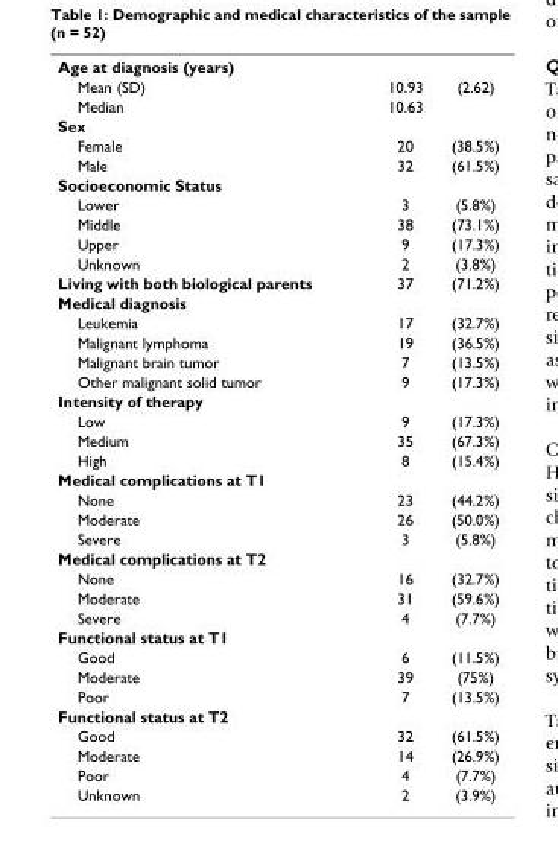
<table><tbody><tr><td colspan="3">Age at diagnosis (years)</td></tr><tr><td>Mean (SD)</td><td>10.93</td><td>(2.62)</td></tr><tr><td>Median</td><td>10.63</td><td></td></tr><tr><td colspan="3">Sex</td></tr><tr><td>Female</td><td>20</td><td>(38.5%)</td></tr><tr><td>Male</td><td>32</td><td>(61.5%)</td></tr><tr><td colspan="3">Socioeconomic Status</td></tr><tr><td>Lower</td><td>3</td><td>(5.8%)</td></tr><tr><td>Middle</td><td>38</td><td>(73.1%)</td></tr><tr><td>Upper</td><td>9</td><td>(17.3%)</td></tr><tr><td>Unknown</td><td>2</td><td>(3.8%)</td></tr><tr><td>Living with both biological parents</td><td>37</td><td>(71.2%)</td></tr><tr><td colspan="3">Medical diagnosis</td></tr><tr><td>Leukemia</td><td>17</td><td>(32.7%)</td></tr><tr><td>Malignant lymphoma</td><td>19</td><td>(36.5%)</td></tr><tr><td>Malignant brain tumor</td><td>7</td><td>(13.5%)</td></tr><tr><td>Other malignant solid tumor</td><td>9</td><td>(17.3%)</td></tr><tr><td colspan="3">Intensity of therapy</td></tr><tr><td>Low</td><td>9</td><td>(17.3%)</td></tr><tr><td>Medium</td><td>35</td><td>(67.3%)</td></tr><tr><td>High</td><td>8</td><td>(15.4%)</td></tr><tr><td colspan="3">Medical complications at T1</td></tr><tr><td>None</td><td>23</td><td>(44.2%)</td></tr><tr><td>Moderate</td><td>26</td><td>(50.0%)</td></tr><tr><td>Severe</td><td>3</td><td>(5.8%)</td></tr><tr><td colspan="3">Medical complications at T2</td></tr><tr><td>None</td><td>16</td><td>(32.7%)</td></tr><tr><td>Moderate</td><td>31</td><td>(59.6%)</td></tr><tr><td>Severe</td><td>4</td><td>(7.7%)</td></tr><tr><td colspan="3">Functional status at T1</td></tr><tr><td>Good</td><td>6</td><td>(11.5%)</td></tr><tr><td>Moderate</td><td>39</td><td>(75%)</td></tr><tr><td>Poor</td><td>7</td><td>(13.5%)</td></tr><tr><td colspan="3">Functional status at T2</td></tr><tr><td>Good</td><td>32</td><td>(61.5%)</td></tr><tr><td>Moderate</td><td>14</td><td>(26.9%)</td></tr><tr><td>Poor</td><td>4</td><td>(7.7%)</td></tr><tr><td>Unknown</td><td>2</td><td>(3.9%)</td></tr></tbody></table>